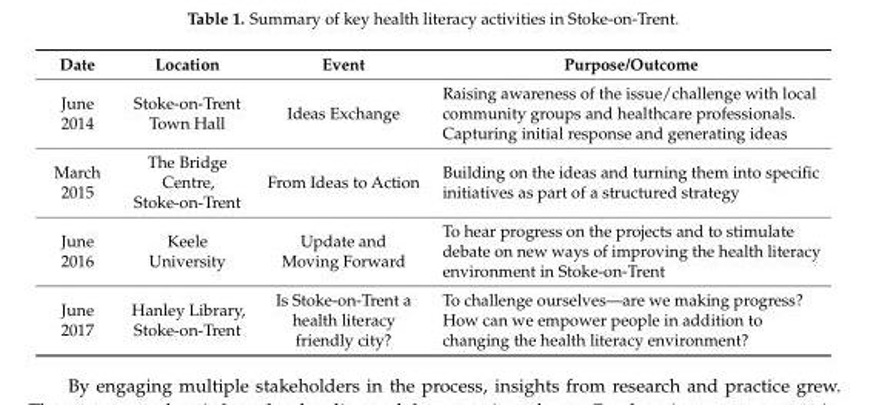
<table><thead><tr><td>Date</td><td>Location</td><td>Event</td><td>Purpose/Outcome</td></tr></thead><tbody><tr><td>June 2014</td><td>Stoke-on-Trent Town Hall</td><td>Ideas Exchange</td><td>Raising awareness of the issue/challenge with local community groups and healthcare professionals. Capturing initial response and generating ideas</td></tr><tr><td>March 2015</td><td>The Bridge Centre, Stoke-on-Trent</td><td>From Ideas to Action</td><td>Building on the ideas and turning them into specific initiatives as part of a structured strategy</td></tr><tr><td>June 2016</td><td>Keele University</td><td>Update and Moving Forward</td><td>To hear progress on the projects and to stimulate debate on new ways of improving the health literacy environment in Stoke-on-Trent</td></tr><tr><td>June 2017</td><td>Hanley Library, Stoke-on-Trent</td><td>Is Stoke-on-Trent a health literacy friendly city?</td><td>To challenge ourselves—are we making progress? How can we empower people in addition to changing the health literacy environment?</td></tr></tbody></table>